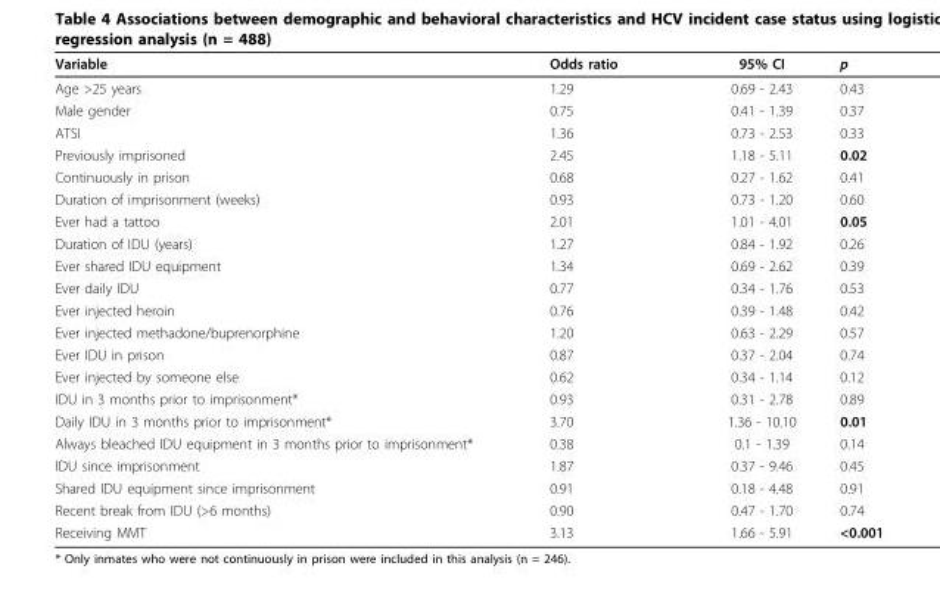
<table><thead><tr><td>Variable</td><td>Odds ratio</td><td>95% CI</td><td>p</td></tr></thead><tbody><tr><td>Age &gt;25 years</td><td>1.29</td><td>0.69 - 2.43</td><td>0.43</td></tr><tr><td>Male gender</td><td>0.75</td><td>0.41 - 1.39</td><td>0.37</td></tr><tr><td>ATSI</td><td>1.36</td><td>0.73 - 2.53</td><td>0.33</td></tr><tr><td>Previously imprisoned</td><td>2.45</td><td>1.18 - 5.11</td><td>0.02</td></tr><tr><td>Continuously in prison</td><td>0.68</td><td>0.27 - 1.62</td><td>0.41</td></tr><tr><td>Duration of imprisonment (weeks)</td><td>0.93</td><td>0.73 - 1.20</td><td>0.60</td></tr><tr><td>Ever had a tattoo</td><td>2.01</td><td>1.01 - 4.01</td><td>0.05</td></tr><tr><td>Duration of IDU (years)</td><td>1.27</td><td>0.84 - 1.92</td><td>0.26</td></tr><tr><td>Ever shared IDU equipment</td><td>1.34</td><td>0.69 - 2.62</td><td>0.39</td></tr><tr><td>Ever daily IDU</td><td>0.77</td><td>0.34 - 1.76</td><td>0.53</td></tr><tr><td>Ever injected heroin</td><td>0.76</td><td>0.39 - 1.48</td><td>0.42</td></tr><tr><td>Ever injected methadone/buprenorphine</td><td>1.20</td><td>0.63 - 2.29</td><td>0.57</td></tr><tr><td>Ever IDU in prison</td><td>0.87</td><td>0.37 - 2.04</td><td>0.74</td></tr><tr><td>Ever injected by someone else</td><td>0.62</td><td>0.34 - 1.14</td><td>0.12</td></tr><tr><td>IDU in 3 months prior to imprisonment*</td><td>0.93</td><td>0.31 - 2.78</td><td>0.89</td></tr><tr><td>Daily IDU in 3 months prior to imprisonment*</td><td>3.70</td><td>1.36 - 10.10</td><td>0.01</td></tr><tr><td>Always bleached IDU equipment in 3 months prior to imprisonment*</td><td>0.38</td><td>0.1 - 1.39</td><td>0.14</td></tr><tr><td>IDU since imprisonment</td><td>1.87</td><td>0.37 - 9.46</td><td>0.45</td></tr><tr><td>Shared IDU equipment since imprisonment</td><td>0.91</td><td>0.18 - 4.48</td><td>0.91</td></tr><tr><td>Recent break from IDU (&gt;6 months)</td><td>0.90</td><td>0.47 - 1.70</td><td>0.74</td></tr><tr><td>Receiving MMT</td><td>3.13</td><td>1.66 - 5.91</td><td>&lt;0.001</td></tr></tbody></table>